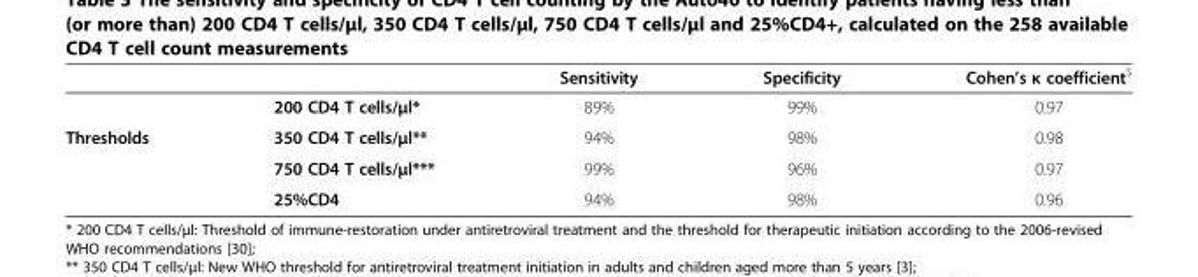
<table><thead><tr><td></td><td></td><td>Sensitivity</td><td>Specificity</td><td>Cohen’s κ coefficient<sup>$</sup></td></tr></thead><tbody><tr><td></td><td>200 CD4 T cells/μl*</td><td>89%</td><td>99%</td><td>0.97</td></tr><tr><td rowspan="3">Thresholds</td><td>350 CD4 T cells/μl**</td><td>94%</td><td>98%</td><td>0.98</td></tr><tr><td>750 CD4 T cells/μl***</td><td>99%</td><td>96%</td><td>0.97</td></tr><tr><td>25%CD4</td><td>94%</td><td>98%</td><td>0.96</td></tr></tbody></table>